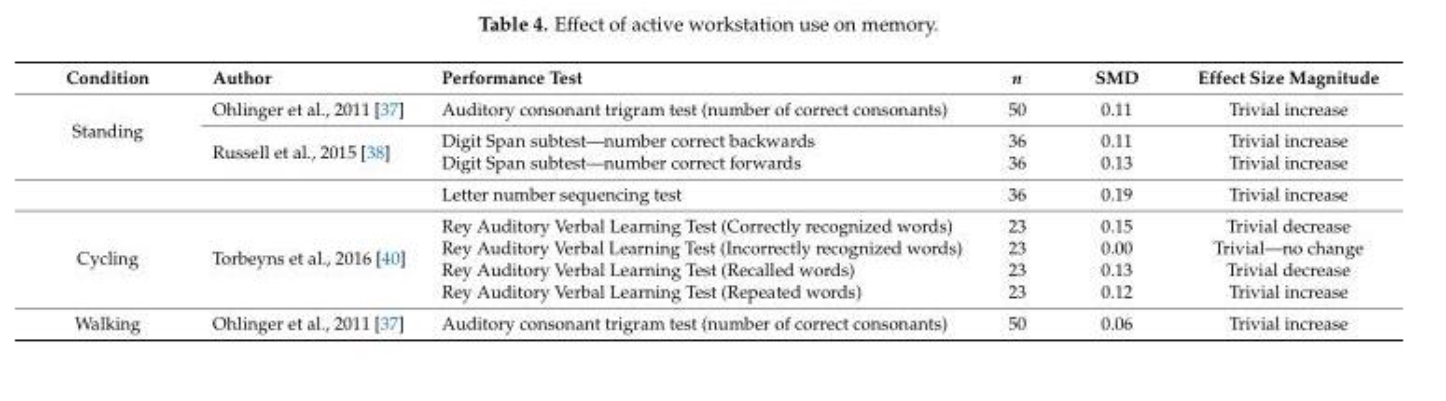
<table><thead><tr><td>Condition</td><td>Author</td><td>Performance Test</td><td>n</td><td>SMD</td><td>Effect Size Magnitude</td></tr></thead><tbody><tr><td rowspan="4">Standing</td><td>Ohlinger et al., 2011 [37]</td><td>Auditory consonant trigram test (number of correct consonants)</td><td>50</td><td>0.11</td><td>Trivial increase</td></tr><tr><td rowspan="2">Russell et al., 2015 [38]</td><td>Digit Span subtest—number correct backwards</td><td>36</td><td>0.11</td><td>Trivial increase</td></tr><tr><td>Digit Span subtest—number correct forwards</td><td>36</td><td>0.13</td><td>Trivial increase</td></tr><tr><td></td><td>Letter number sequencing test</td><td>36</td><td>0.19</td><td>Trivial increase</td></tr><tr><td rowspan="4">Cycling</td><td rowspan="4">Torbeyns et al., 2016 [40]</td><td>Rey Auditory Verbal Learning Test (Correctly recognized words)</td><td>23</td><td>0.15</td><td>Trivial decrease</td></tr><tr><td>Rey Auditory Verbal Learning Test (Incorrectly recognized words)</td><td>23</td><td>0.00</td><td>Trivial—no change</td></tr><tr><td>Rey Auditory Verbal Learning Test (Recalled words)</td><td>23</td><td>0.13</td><td>Trivial decrease</td></tr><tr><td>Rey Auditory Verbal Learning Test (Repeated words)</td><td>23</td><td>0.12</td><td>Trivial increase</td></tr><tr><td>Walking</td><td>Ohlinger et al., 2011 [37]</td><td>Auditory consonant trigram test (number of correct consonants)</td><td>50</td><td>0.06</td><td>Trivial increase</td></tr></tbody></table>